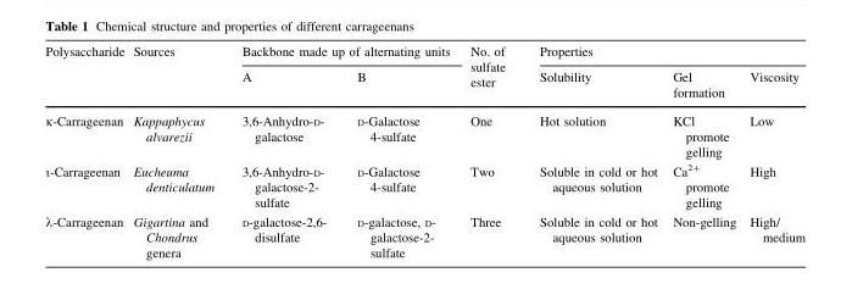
<table><thead><tr><td rowspan="2">Polysaccharide</td><td rowspan="2">Sources</td><td colspan="2">Backbone made up of alternating units</td><td rowspan="2">No. of sulfate ester</td><td colspan="3">Properties</td></tr><tr><td>A</td><td>B</td><td>Solubility</td><td>Gel formation</td><td>Viscosity</td></tr></thead><tbody><tr><td>κ-Carrageenan</td><td>Kappaphycus alvarezii</td><td>3,6-Anhydro-D- galactose</td><td>D-Galactose 4-sulfate</td><td>One</td><td>Hot solution</td><td>KCl promote gelling</td><td>Low</td></tr><tr><td>ι-Carrageenan</td><td>Eucheuma denticulatum</td><td>3,6-Anhydro-D- galactose-2- sulfate</td><td>D-Galactose 4-sulfate</td><td>Two</td><td>Soluble in cold or hot aqueous solution</td><td>Ca<sup>2+</sup> promote gelling</td><td>High</td></tr><tr><td>λ-Carrageenan</td><td>Gigartina and Chondrus genera</td><td>D-galactose-2,6- disulfate</td><td>D-galactose, D- galactose-2- sulfate</td><td>Three</td><td>Soluble in cold or hot aqueous solution</td><td>Non-gelling</td><td>High/ medium</td></tr></tbody></table>